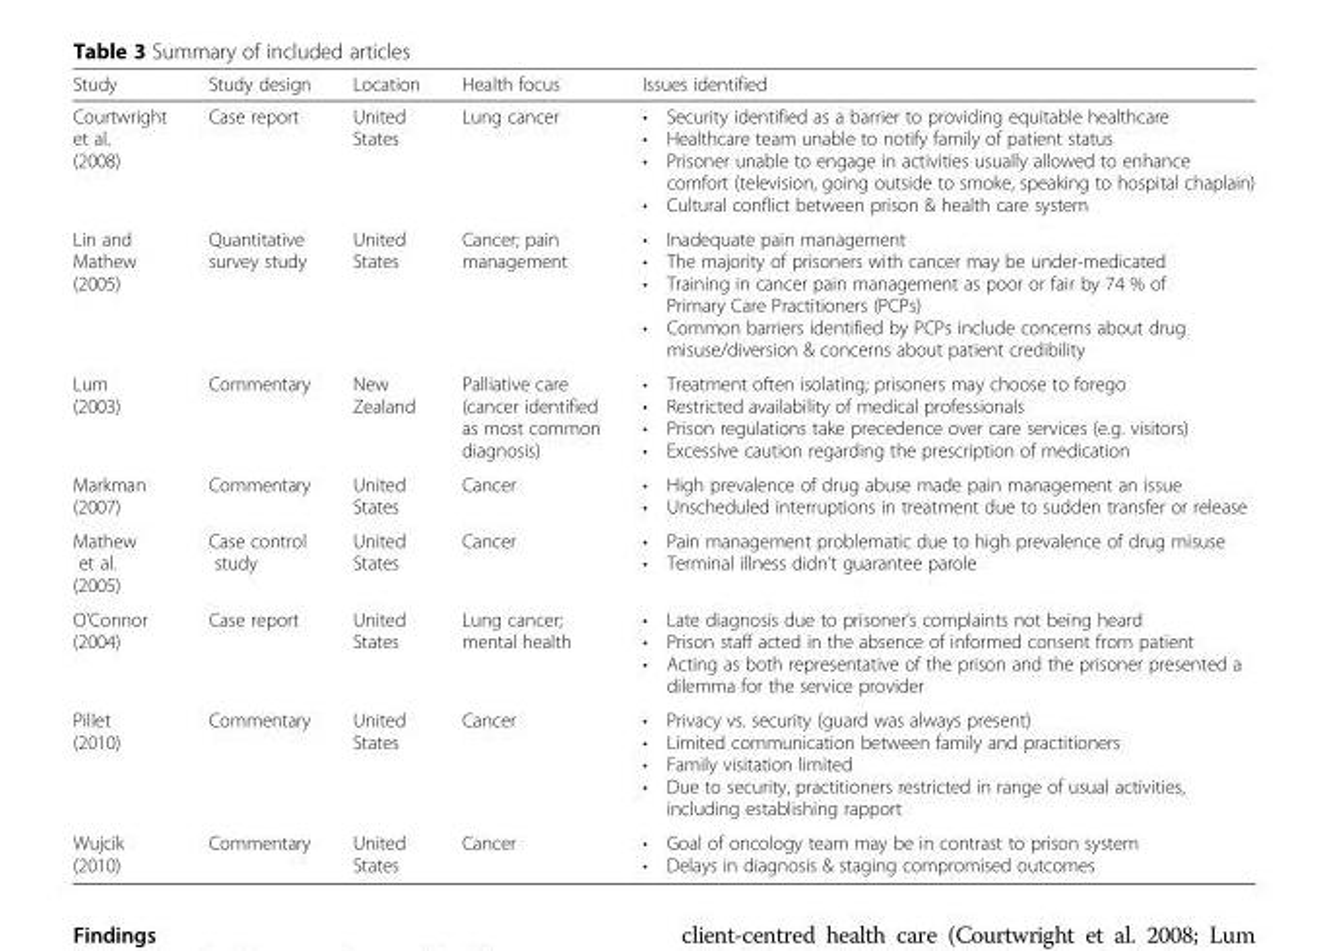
<table><thead><tr><td>Study</td><td>Study design</td><td>Location</td><td>Health focus</td><td>Issues identified</td></tr></thead><tbody><tr><td>Courtwright et al. (2008)</td><td>Case report</td><td>United States</td><td>Lung cancer</td><td>• Security identified as a barrier to providing equitable healthcare • Healthcare team unable to notify family of patient status • Prisoner unable to engage in activities usually allowed to enhance comfort (television, going outside to smoke, speaking to hospital chaplain) • Cultural conflict between prison &amp; health care system</td></tr><tr><td>Lin and Mathew (2005)</td><td>Quantitative survey study</td><td>United States</td><td>Cancer; pain management</td><td>• Inadequate pain management • The majority of prisoners with cancer may be under-medicated • Training in cancer pain management as poor or fair by 74 % of Primary Care Practitioners (PCPs) • Common barriers identified by PCPs include concerns about drug misuse/diversion &amp; concerns about patient credibility</td></tr><tr><td>Lum (2003)</td><td>Commentary</td><td>New Zealand</td><td>Palliative care (cancer identified as most common diagnosis)</td><td>• Treatment often isolating; prisoners may choose to forego • Restricted availability of medical professionals • Prison regulations take precedence over care services (e.g. visitors) • Excessive caution regarding the prescription of medication</td></tr><tr><td>Markman (2007)</td><td>Commentary</td><td>United States</td><td>Cancer</td><td>• High prevalence of drug abuse made pain management an issue • Unscheduled interruptions in treatment due to sudden transfer or release</td></tr><tr><td>Mathew et al. (2005)</td><td>Case control study</td><td>United States</td><td>Cancer</td><td>• Pain management problematic due to high prevalence of drug misuse • Terminal illness didn’t guarantee parole</td></tr><tr><td>O’Connor (2004)</td><td>Case report</td><td>United States</td><td>Lung cancer; mental health</td><td>• Late diagnosis due to prisoner’s complaints not being heard • Prison staff acted in the absence of informed consent from patient • Acting as both representative of the prison and the prisoner presented a dilemma for the service provider</td></tr><tr><td>Pillet (2010)</td><td>Commentary</td><td>United States</td><td>Cancer</td><td>• Privacy vs. security (guard was always present) • Limited communication between family and practitioners • Family visitation limited • Due to security, practitioners restricted in range of usual activities, including establishing rapport</td></tr><tr><td>Wujcik (2010)</td><td>Commentary</td><td>United States</td><td>Cancer</td><td>• Goal of oncology team may be in contrast to prison system • Delays in diagnosis &amp; staging compromised outcomes</td></tr></tbody></table>